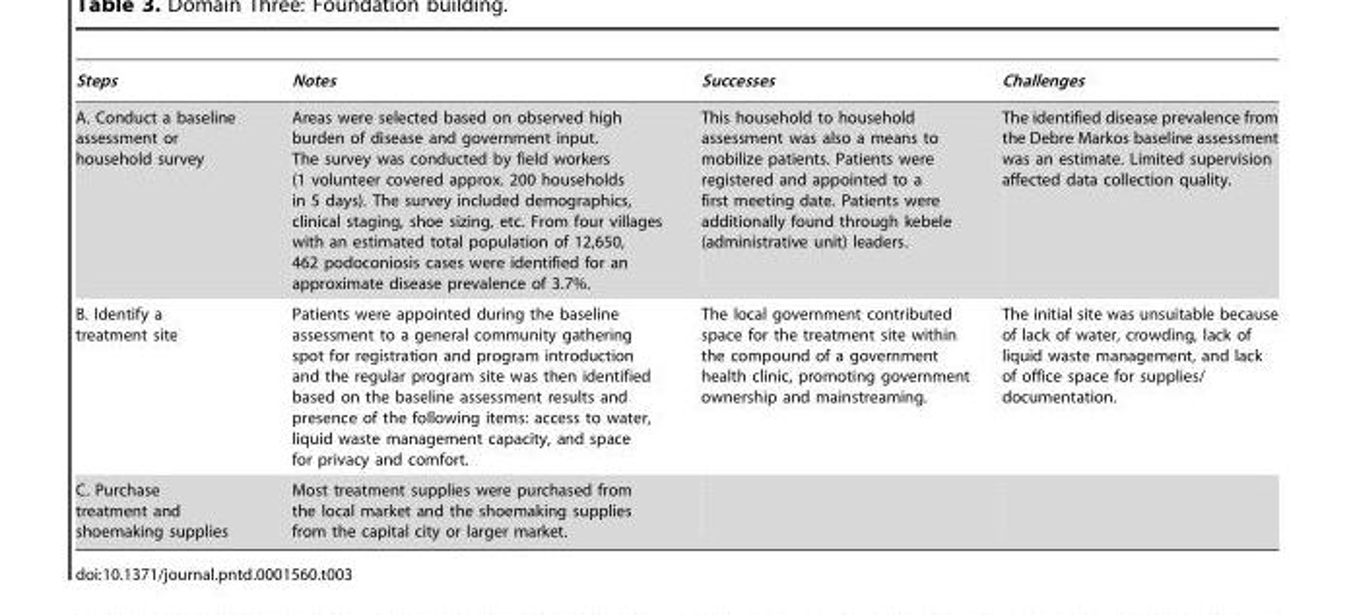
<table><thead><tr><td>Steps</td><td>Notes</td><td>Successes</td><td>Challenges</td></tr></thead><tbody><tr><td>A. Conduct a baseline assessment or household survey</td><td>Areas were selected based on observed high burden of disease and government input. The survey was conducted by field workers (1 volunteer covered approx. 200 households in 5 days). The survey included demographics, clinical staging, shoe sizing, etc. From four villages with an estimated total population of 12,650, 462 podoconiosis cases were identified for an approximate disease prevalence of 3.7%.</td><td>This household to household assessment was also a means to mobilize patients. Patients were registered and appointed to a first meeting date. Patients were additionally found through kebele (administrative unit) leaders.</td><td>The identified disease prevalence from the Debre Markos baseline assessment was an estimate. Limited supervision affected data collection quality.</td></tr><tr><td>B. Identify a treatment site</td><td>Patients were appointed during the baseline assessment to a general community gathering spot for registration and program introduction and the regular program site was then identified based on the baseline assessment results and presence of the following items: access to water, liquid waste management capacity, and space for privacy and comfort.</td><td>The local government contributed space for the treatment site within the compound of a government health clinic, promoting government ownership and mainstreaming.</td><td>The initial site was unsuitable because of lack of water, crowding, lack of liquid waste management, and lack of office space for supplies/ documentation.</td></tr><tr><td>C. Purchase treatment and shoemaking supplies</td><td>Most treatment supplies were purchased from the local market and the shoemaking supplies from the capital city or larger market.</td><td></td><td></td></tr></tbody></table>